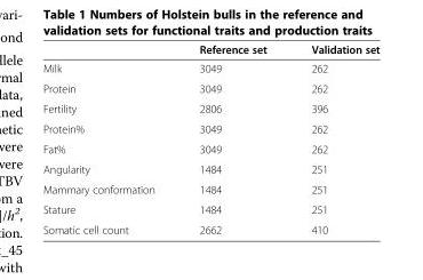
<table><thead><tr><td></td><td>Reference set</td><td>Validation set</td></tr></thead><tbody><tr><td>Milk</td><td>3049</td><td>262</td></tr><tr><td>Protein</td><td>3049</td><td>262</td></tr><tr><td>Fertility</td><td>2806</td><td>396</td></tr><tr><td>Protein%</td><td>3049</td><td>262</td></tr><tr><td>Fat%</td><td>3049</td><td>262</td></tr><tr><td>Angularity</td><td>1484</td><td>251</td></tr><tr><td>Mammary conformation</td><td>1484</td><td>251</td></tr><tr><td>Stature</td><td>1484</td><td>251</td></tr><tr><td>Somatic cell count</td><td>2662</td><td>410</td></tr></tbody></table>